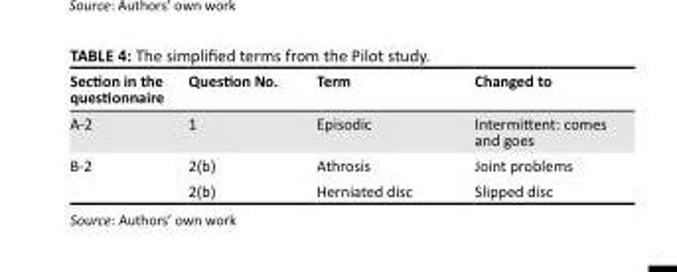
<table><thead><tr><td>Section in the questionnaire</td><td>Question No.</td><td>Term</td><td>Changed to</td></tr></thead><tbody><tr><td>A-2</td><td>1</td><td>Episodic</td><td>Intermittent: comes and goes</td></tr><tr><td rowspan="2">B-2</td><td>2(b)</td><td>Athrosis</td><td>Joint problems</td></tr><tr><td>2(b)</td><td>Herniated disc</td><td>Slipped disc</td></tr></tbody></table>